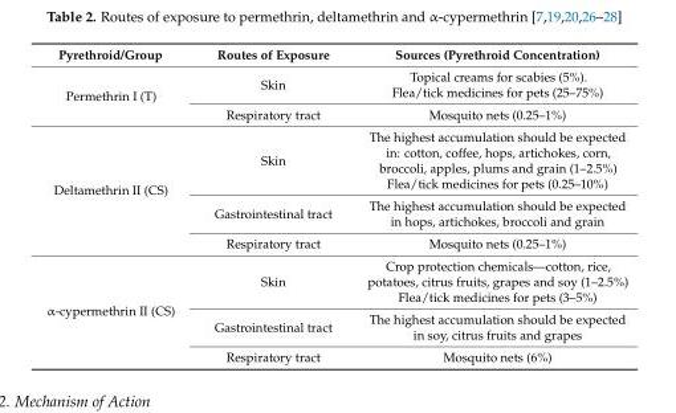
<table><thead><tr><td>Pyrethroid/Group</td><td>Routes of Exposure</td><td>Sources (Pyrethroid Concentration)</td></tr></thead><tbody><tr><td rowspan="2">Permethrin I (T)</td><td>Skin</td><td>Topical creams for scabies (5%). Flea/tick medicines for pets (25–75%)</td></tr><tr><td>Respiratory tract</td><td>Mosquito nets (0.25–1%)</td></tr><tr><td rowspan="3">Deltamethrin II (CS)</td><td>Skin</td><td>The highest accumulation should be expected in: cotton, coffee, hops, artichokes, corn, broccoli, apples, plums and grain (1–2.5%) Flea/tick medicines for pets (0.25–10%)</td></tr><tr><td>Gastrointestinal tract</td><td>The highest accumulation should be expected in hops, artichokes, broccoli and grain</td></tr><tr><td>Respiratory tract</td><td>Mosquito nets (0.25–1%)</td></tr><tr><td rowspan="3">α-cypermethrin II (CS)</td><td>Skin</td><td>Crop protection chemicals—cotton, rice, potatoes, citrus fruits, grapes and soy (1–2.5%) Flea/tick medicines for pets (3–5%)</td></tr><tr><td>Gastrointestinal tract</td><td>The highest accumulation should be expected in soy, citrus fruits and grapes</td></tr><tr><td>Respiratory tract</td><td>Mosquito nets (6%)</td></tr></tbody></table>